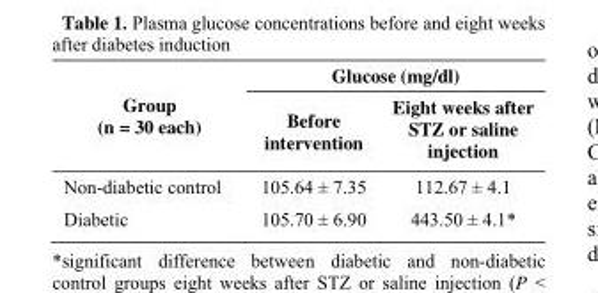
<table><thead><tr><td rowspan="2">Group (n = 30 each)</td><td colspan="2">Glucose (mg/dl)</td></tr><tr><td>Before intervention</td><td>Eight weeks after STZ or saline injection</td></tr></thead><tbody><tr><td>Non-diabetic control</td><td>105.64 ± 7.35</td><td>112.67 ± 4.1</td></tr><tr><td>Diabetic</td><td>105.70 ± 6.90</td><td>443.50 ± 4.1*</td></tr></tbody></table>